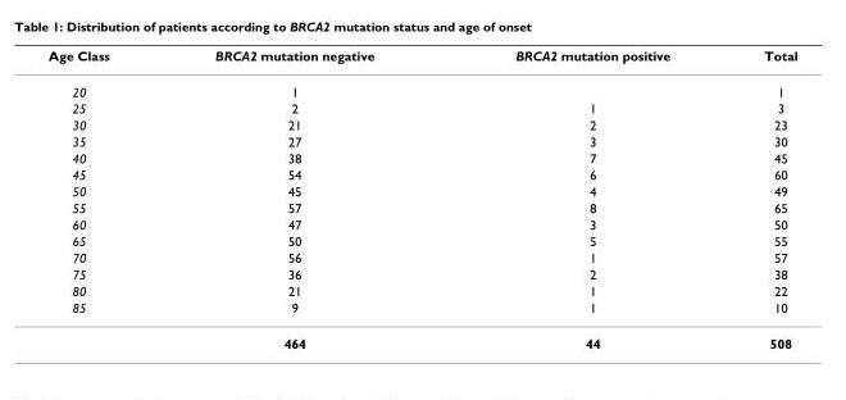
<table><thead><tr><td>Age Class</td><td>BRCA2 mutation negative</td><td>BRCA2 mutation positive</td><td>Total</td></tr></thead><tbody><tr><td>20</td><td>1</td><td></td><td>1</td></tr><tr><td>25</td><td>2</td><td>1</td><td>3</td></tr><tr><td>30</td><td>21</td><td>2</td><td>23</td></tr><tr><td>35</td><td>27</td><td>3</td><td>30</td></tr><tr><td>40</td><td>38</td><td>7</td><td>45</td></tr><tr><td>45</td><td>54</td><td>6</td><td>60</td></tr><tr><td>50</td><td>45</td><td>4</td><td>49</td></tr><tr><td>55</td><td>57</td><td>8</td><td>65</td></tr><tr><td>60</td><td>47</td><td>3</td><td>50</td></tr><tr><td>65</td><td>50</td><td>5</td><td>55</td></tr><tr><td>70</td><td>56</td><td>1</td><td>57</td></tr><tr><td>75</td><td>36</td><td>2</td><td>38</td></tr><tr><td>80</td><td>21</td><td>1</td><td>22</td></tr><tr><td rowspan="2">85</td><td>9</td><td>1</td><td>10</td></tr><tr><td>464</td><td>44</td><td>508</td></tr></tbody></table>